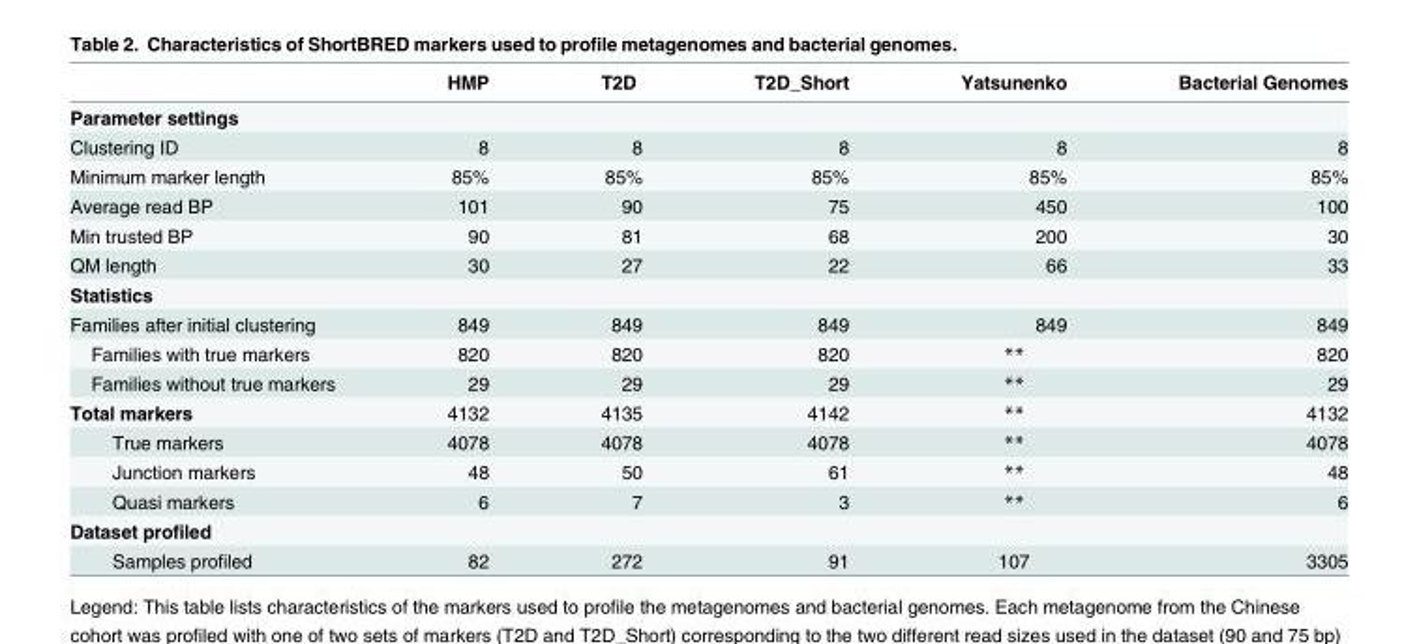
<table><thead><tr><td></td><td>HMP</td><td>T2D</td><td>T2D_Short</td><td>Yatsunenko</td><td>Bacterial Genomes</td></tr></thead><tbody><tr><td colspan="6">Parameter settings</td></tr><tr><td>Clustering ID</td><td>8</td><td>8</td><td>8</td><td>8</td><td>8</td></tr><tr><td>Minimum marker length</td><td>85%</td><td>85%</td><td>85%</td><td>85%</td><td>85%</td></tr><tr><td>Average read BP</td><td>101</td><td>90</td><td>75</td><td>450</td><td>100</td></tr><tr><td>Min trusted BP</td><td>90</td><td>81</td><td>68</td><td>200</td><td>30</td></tr><tr><td>QM length</td><td>30</td><td>27</td><td>22</td><td>66</td><td>33</td></tr><tr><td colspan="6">Statistics</td></tr><tr><td>Families after initial clustering</td><td>849</td><td>849</td><td>849</td><td>849</td><td>849</td></tr><tr><td>Families with true markers</td><td>820</td><td>820</td><td>820</td><td>**</td><td>820</td></tr><tr><td>Families without true markers</td><td>29</td><td>29</td><td>29</td><td>**</td><td>29</td></tr><tr><td>Total markers</td><td>4132</td><td>4135</td><td>4142</td><td>**</td><td>4132</td></tr><tr><td>True markers</td><td>4078</td><td>4078</td><td>4078</td><td>**</td><td>4078</td></tr><tr><td>Junction markers</td><td>48</td><td>50</td><td>61</td><td>**</td><td>48</td></tr><tr><td>Quasi markers</td><td>6</td><td>7</td><td>3</td><td>**</td><td>6</td></tr><tr><td colspan="6">Dataset profiled</td></tr><tr><td>Samples profiled</td><td>82</td><td>272</td><td>91</td><td>107</td><td>3305</td></tr></tbody></table>